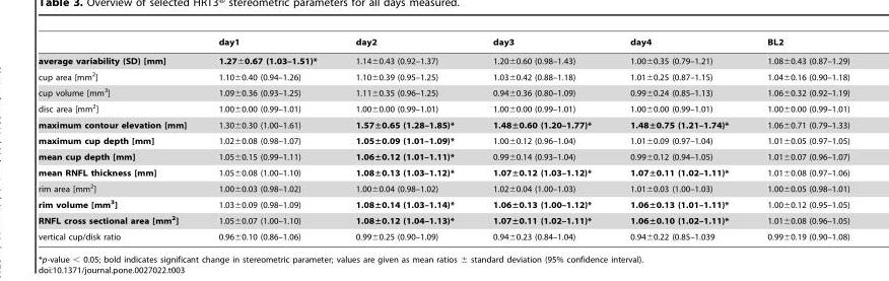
<table><thead><tr><td></td><td>day1</td><td>day2</td><td>day3</td><td>day4</td><td>BL2</td></tr></thead><tbody><tr><td>average variability (SD) [mm]</td><td>1.27±0.67 (1.03–1.51)*</td><td>1.14±0.43 (0.92–1.37)</td><td>1.20±0.60 (0.98–1.43)</td><td>1.00±0.35 (0.79–1.21)</td><td>1.08±0.43 (0.87–1.29)</td></tr><tr><td>cup area [mm<sup>2</sup>]</td><td>1.10±0.40 (0.94–1.26)</td><td>1.10±0.39 (0.95–1.25)</td><td>1.03±0.42 (0.88–1.18)</td><td>1.01±0.25 (0.87–1.15)</td><td>1.04±0.16 (0.90–1.18)</td></tr><tr><td>cup volume [mm<sup>3</sup>]</td><td>1.09±0.36 (0.93–1.25)</td><td>1.11±0.35 (0.96–1.25)</td><td>0.94±0.36 (0.80–1.09)</td><td>0.99±0.24 (0.85–1.13)</td><td>1.06±0.32 (0.92–1.19)</td></tr><tr><td>disc area [mm<sup>2</sup>]</td><td>1.00±0.00 (0.99–1.01)</td><td>1.00±0.00 (0.99–1.01)</td><td>1.00±0.00 (0.99–1.01)</td><td>1.00±0.00 (0.99–1.01)</td><td>1.00±0.00 (0.99–1.01)</td></tr><tr><td>maximum contour elevation [mm]</td><td>1.30±0.30 (1.00–1.61)</td><td>1.57±0.65 (1.28–1.85)*</td><td>1.48±0.60 (1.20–1.77)*</td><td>1.48±0.75 (1.21–1.74)*</td><td>1.06±0.71 (0.79–1.33)</td></tr><tr><td>maximum cup depth [mm]</td><td>1.02±0.08 (0.98–1.07)</td><td>1.05±0.09 (1.01–1.09)*</td><td>1.00±0.12 (0.96–1.04)</td><td>1.01±0.09 (0.97–1.04)</td><td>1.01±0.05 (0.97–1.05)</td></tr><tr><td>mean cup depth [mm]</td><td>1.05±0.15 (0.99–1.11)</td><td>1.06±0.12 (1.01–1.11)*</td><td>0.99±0.14 (0.93–1.04)</td><td>0.99±0.12 (0.94–1.05)</td><td>1.01±0.07 (0.96–1.07)</td></tr><tr><td>mean RNFL thickness [mm]</td><td>1.05±0.08 (1.00–1.10)</td><td>1.08±0.13 (1.03–1.12)*</td><td>1.07±0.12 (1.03–1.12)*</td><td>1.07±0.11 (1.02–1.11)*</td><td>1.01±0.08 (0.97–1.06)</td></tr><tr><td>rim area [mm<sup>2</sup>]</td><td>1.00±0.03 (0.98–1.02)</td><td>1.00±0.04 (0.98–1.02)</td><td>1.02±0.04 (1.00–1.03)</td><td>1.01±0.03 (1.00–1.03)</td><td>1.00±0.05 (0.98–1.01)</td></tr><tr><td>rim volume [mm<sup>3</sup>]</td><td>1.03±0.09 (0.98–1.09)</td><td>1.08±0.14 (1.03–1.14)*</td><td>1.06±0.13 (1.00–1.12)*</td><td>1.06±0.13 (1.01–1.11)*</td><td>1.00±0.12 (0.95–1.05)</td></tr><tr><td>RNFL cross sectional area [mm<sup>2</sup>]</td><td>1.05±0.07 (1.00–1.10)</td><td>1.08±0.12 (1.04–1.13)*</td><td>1.07±0.11 (1.02–1.11)*</td><td>1.06±0.10 (1.02–1.11)*</td><td>1.01±0.08 (0.96–1.05)</td></tr><tr><td>vertical cup/disk ratio</td><td>0.96±0.10 (0.86–1.06)</td><td>0.99±0.25 (0.90–1.09)</td><td>0.94±0.23 (0.84–1.04)</td><td>0.94±0.22 (0.85–1.039</td><td>0.99±0.19 (0.90–1.08)</td></tr></tbody></table>